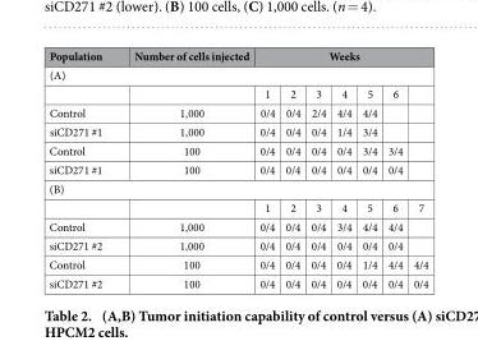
<table><thead><tr><td>Population</td><td>Number of cells injected</td><td colspan="7">Weeks</td></tr><tr><td colspan="9">(A)</td></tr><tr><td></td><td></td><td>1</td><td>2</td><td>3</td><td>4</td><td>5</td><td>6</td><td></td></tr></thead><tbody><tr><td>Control</td><td>1,000</td><td>0/4</td><td>0/4</td><td>2/4</td><td>4/4</td><td>4/4</td><td></td><td></td></tr><tr><td>siCD271 #1</td><td>1,000</td><td>0/4</td><td>0/4</td><td>0/4</td><td>1/4</td><td>3/4</td><td></td><td></td></tr><tr><td>Control</td><td>100</td><td>0/4</td><td>0/4</td><td>0/4</td><td>0/4</td><td>3/4</td><td>3/4</td><td></td></tr><tr><td>siCD271 #1</td><td>100</td><td>0/4</td><td>0/4</td><td>0/4</td><td>0/4</td><td>0/4</td><td>0/4</td><td></td></tr><tr><td colspan="9">(B)</td></tr><tr><td></td><td></td><td>1</td><td>2</td><td>3</td><td>4</td><td>5</td><td>6</td><td>7</td></tr><tr><td>Control</td><td>1,000</td><td>0/4</td><td>0/4</td><td>0/4</td><td>3/4</td><td>4/4</td><td>4/4</td><td></td></tr><tr><td>siCD271 #2</td><td>1,000</td><td>0/4</td><td>0/4</td><td>0/4</td><td>0/4</td><td>0/4</td><td>0/4</td><td></td></tr><tr><td>Control</td><td>100</td><td>0/4</td><td>0/4</td><td>0/4</td><td>0/4</td><td>1/4</td><td>4/4</td><td>4/4</td></tr><tr><td>siCD271 #2</td><td>100</td><td>0/4</td><td>0/4</td><td>0/4</td><td>0/4</td><td>0/4</td><td>0/4</td><td>0/4</td></tr></tbody></table>